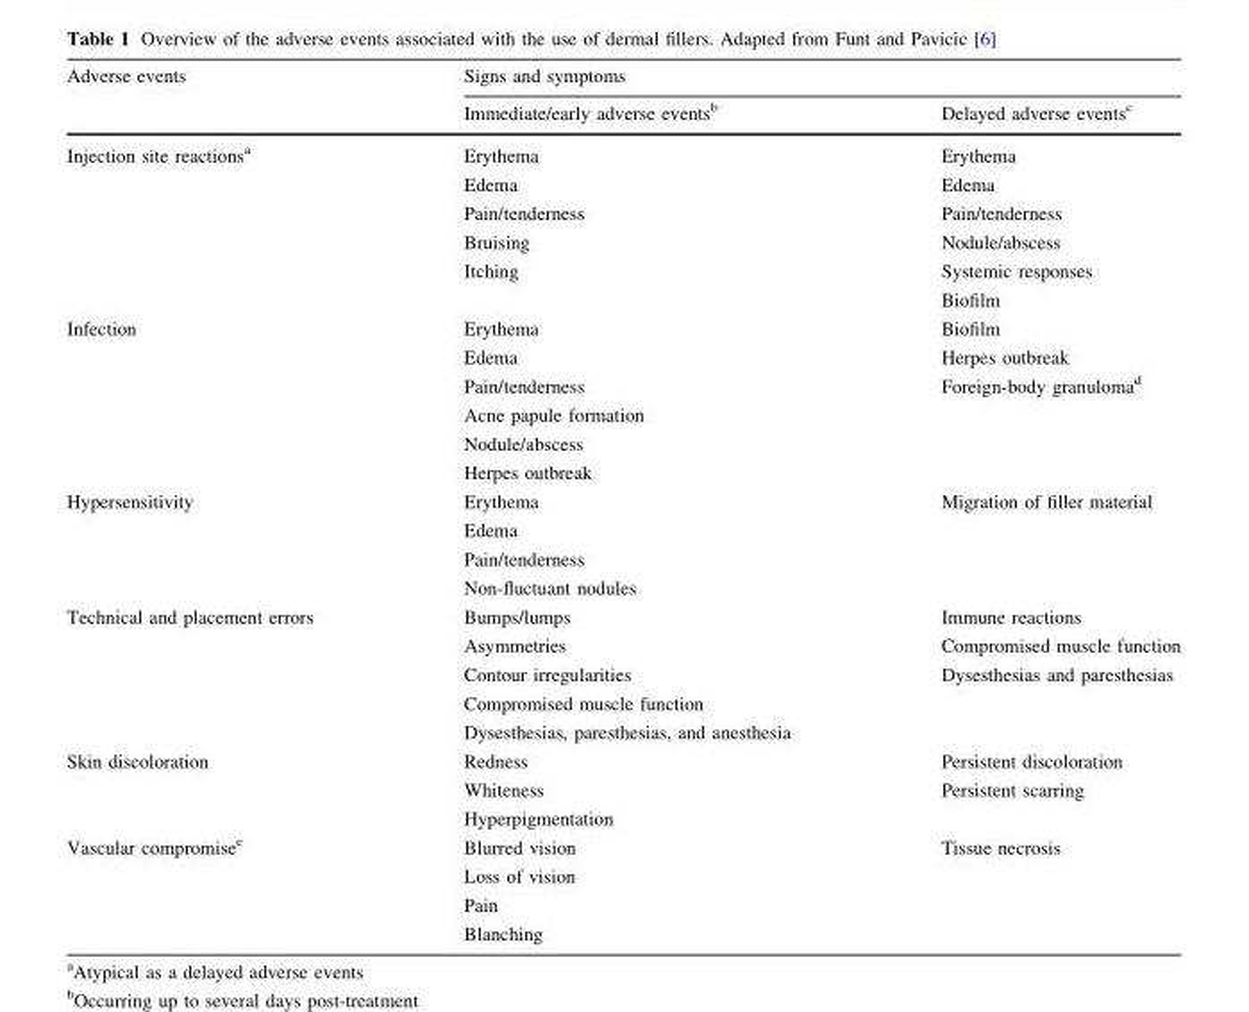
<table><thead><tr><td rowspan="2">Adverse events</td><td colspan="2">Signs and symptoms</td></tr><tr><td>Immediate/early adverse events<sup>b</sup></td><td>Delayed adverse events<sup>c</sup></td></tr></thead><tbody><tr><td>Injection site reactions<sup>a</sup></td><td>Erythema Edema Pain/tenderness Bruising Itching</td><td>Erythema Edema Pain/tenderness Nodule/abscess Systemic responses Biofilm</td></tr><tr><td>Infection</td><td>Erythema Edema Pain/tenderness Acne papule formation Nodule/abscess Herpes outbreak</td><td>Biofilm Herpes outbreak Foreign-body granuloma<sup>d</sup></td></tr><tr><td>Hypersensitivity</td><td>Erythema Edema Pain/tenderness Non-fluctuant nodules</td><td>Migration of filler material</td></tr><tr><td>Technical and placement errors</td><td>Bumps/lumps Asymmetries Contour irregularities Compromised muscle function Dysesthesias, paresthesias, and anesthesia</td><td>Immune reactions Compromised muscle function Dysesthesias and paresthesias</td></tr><tr><td>Skin discoloration</td><td>Redness Whiteness Hyperpigmentation</td><td>Persistent discoloration Persistent scarring</td></tr><tr><td>Vascular compromise<sup>e</sup></td><td>Blurred vision Loss of vision Pain Blanching</td><td>Tissue necrosis</td></tr></tbody></table>